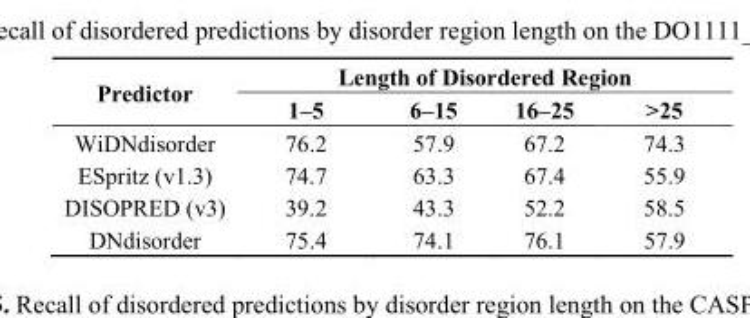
<table><thead><tr><td rowspan="2">Predictor</td><td colspan="4">Length of Disordered Region</td></tr><tr><td>1–5</td><td>6–15</td><td>16–25</td><td>&gt;25</td></tr></thead><tbody><tr><td>WiDNdisorder</td><td>76.2</td><td>57.9</td><td>67.2</td><td>74.3</td></tr><tr><td>ESpritz (v1.3)</td><td>74.7</td><td>63.3</td><td>67.4</td><td>55.9</td></tr><tr><td>DISOPRED (v3)</td><td>39.2</td><td>43.3</td><td>52.2</td><td>58.5</td></tr><tr><td>DNdisorder</td><td>75.4</td><td>74.1</td><td>76.1</td><td>57.9</td></tr></tbody></table>